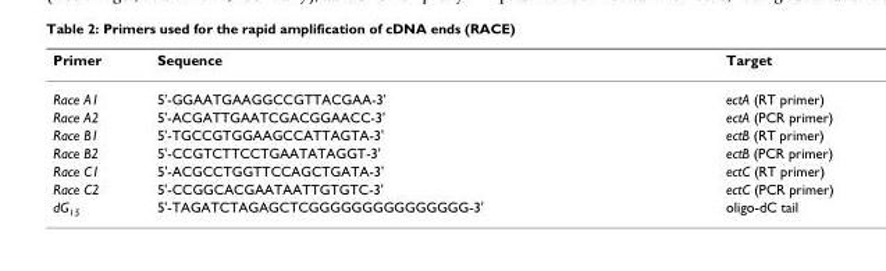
<table><thead><tr><td>Primer</td><td>Sequence</td><td>Target</td></tr></thead><tbody><tr><td>Race A1</td><td>5&#x27;-GGAATGAAGGCCGTTACGAA-3&#x27;</td><td>ectA (RT primer)</td></tr><tr><td>Race A2</td><td>5&#x27;-ACGATTGAATCGACGGAACC-3&#x27;</td><td>ectA (PCR primer)</td></tr><tr><td>Race B1</td><td>5&#x27;-TGCCGTGGAAGCCATTAGTA-3&#x27;</td><td>ectB (RT primer)</td></tr><tr><td>Race B2</td><td>5&#x27;-CCGTCTTCCTGAATATAGGT-3&#x27;</td><td>ectB (PCR primer)</td></tr><tr><td>Race C1</td><td>5&#x27;-ACGCCTGGTTCCAGCTGATA-3&#x27;</td><td>ectC (RT primer)</td></tr><tr><td>Race C2</td><td>5&#x27;-CCGGCACGAATAATTGTGTC-3&#x27;</td><td>ectC (PCR primer)</td></tr><tr><td>dG<sub>15</sub></td><td>5&#x27;-TAGATCTAGAGCTCGGGGGGGGGGGGGGG-3&#x27;</td><td>oligo-dC tail</td></tr></tbody></table>